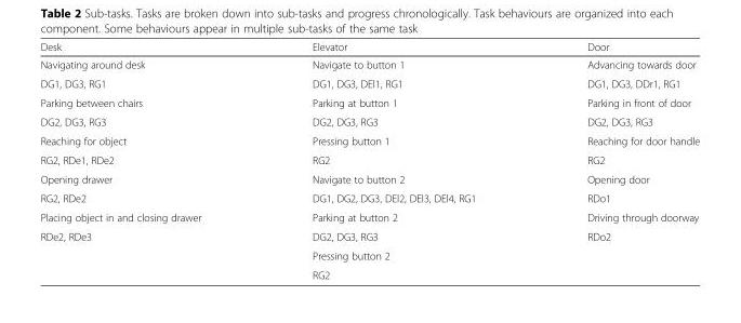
<table><thead><tr><td>Desk</td><td>Elevator</td><td>Door</td></tr></thead><tbody><tr><td>Navigating around desk</td><td>Navigate to button 1</td><td>Advancing towards door</td></tr><tr><td>DG1, DG3, RG1</td><td>DG1, DG3, DEl1, RG1</td><td>DG1, DG3, DDr1, RG1</td></tr><tr><td>Parking between chairs</td><td>Parking at button 1</td><td>Parking in front of door</td></tr><tr><td>DG2, DG3, RG3</td><td>DG2, DG3, RG3</td><td>DG2, DG3, RG3</td></tr><tr><td>Reaching for object</td><td>Pressing button 1</td><td>Reaching for door handle</td></tr><tr><td>RG2, RDe1, RDe2</td><td>RG2</td><td>RG2</td></tr><tr><td>Opening drawer</td><td>Navigate to button 2</td><td>Opening door</td></tr><tr><td>RG2, RDe2</td><td>DG1, DG2, DG3, DEl2, DEl3, DEl4, RG1</td><td>RDo1</td></tr><tr><td>Placing object in and closing drawer</td><td>Parking at button 2</td><td>Driving through doorway</td></tr><tr><td rowspan="3">RDe2, RDe3</td><td>DG2, DG3, RG3</td><td>RDo2</td></tr><tr><td>Pressing button 2</td><td rowspan="2"></td></tr><tr><td>RG2</td></tr></tbody></table>